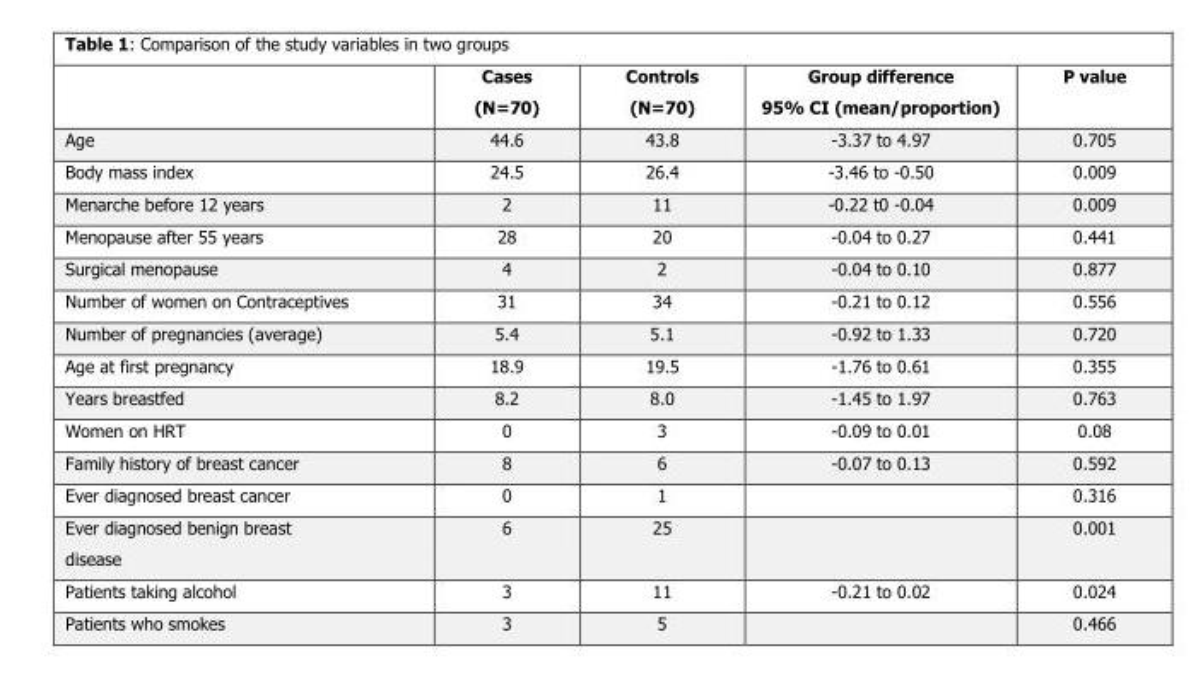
<table><thead><tr><td></td><td>Cases (N=70)</td><td>Controls (N=70)</td><td>Group difference 95% CI (mean/proportion)</td><td>P value</td></tr></thead><tbody><tr><td>Age</td><td>44.6</td><td>43.8</td><td>-3.37 to 4.97</td><td>0.705</td></tr><tr><td>Body mass index</td><td>24.5</td><td>26.4</td><td>-3.46 to -0.50</td><td>0.009</td></tr><tr><td>Menarche before 12 years</td><td>2</td><td>11</td><td>-0.22 t0 -0.04</td><td>0.009</td></tr><tr><td>Menopause after 55 years</td><td>28</td><td>20</td><td>-0.04 to 0.27</td><td>0.441</td></tr><tr><td>Surgical menopause</td><td>4</td><td>2</td><td>-0.04 to 0.10</td><td>0.877</td></tr><tr><td>Number of women on Contraceptives</td><td>31</td><td>34</td><td>-0.21 to 0.12</td><td>0.556</td></tr><tr><td>Number of pregnancies (average)</td><td>5.4</td><td>5.1</td><td>-0.92 to 1.33</td><td>0.720</td></tr><tr><td>Age at first pregnancy</td><td>18.9</td><td>19.5</td><td>-1.76 to 0.61</td><td>0.355</td></tr><tr><td>Years breastfed</td><td>8.2</td><td>8.0</td><td>-1.45 to 1.97</td><td>0.763</td></tr><tr><td>Women on HRT</td><td>0</td><td>3</td><td>-0.09 to 0.01</td><td>0.08</td></tr><tr><td>Family history of breast cancer</td><td>8</td><td>6</td><td>-0.07 to 0.13</td><td>0.592</td></tr><tr><td>Ever diagnosed breast cancer</td><td>0</td><td>1</td><td></td><td>0.316</td></tr><tr><td>Ever diagnosed benign breast disease</td><td>6</td><td>25</td><td></td><td>0.001</td></tr><tr><td>Patients taking alcohol</td><td>3</td><td>11</td><td>-0.21 to 0.02</td><td>0.024</td></tr><tr><td>Patients who smokes</td><td>3</td><td>5</td><td></td><td>0.466</td></tr></tbody></table>